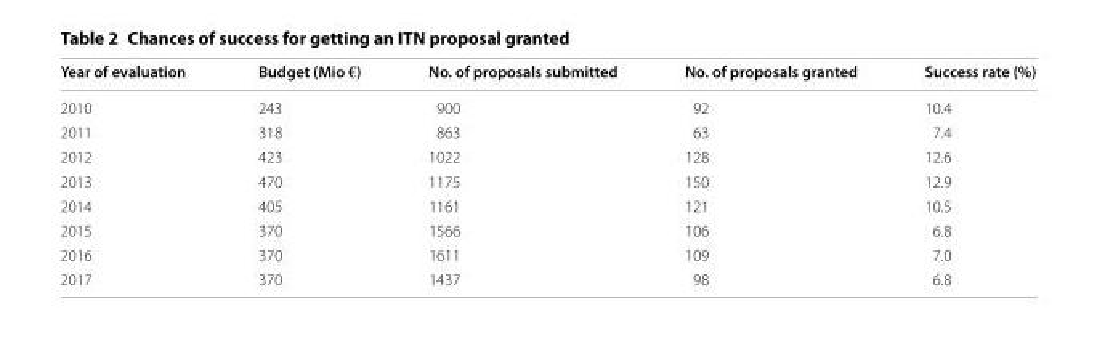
<table><thead><tr><td>Year of evaluation</td><td>Budget (Mio €)</td><td>No. of proposals submitted</td><td>No. of proposals granted</td><td>Success rate (%)</td></tr></thead><tbody><tr><td>2010</td><td>243</td><td>900</td><td>92</td><td>10.4</td></tr><tr><td>2011</td><td>318</td><td>863</td><td>63</td><td>7.4</td></tr><tr><td>2012</td><td>423</td><td>1022</td><td>128</td><td>12.6</td></tr><tr><td>2013</td><td>470</td><td>1175</td><td>150</td><td>12.9</td></tr><tr><td>2014</td><td>405</td><td>1161</td><td>121</td><td>10.5</td></tr><tr><td>2015</td><td>370</td><td>1566</td><td>106</td><td>6.8</td></tr><tr><td>2016</td><td>370</td><td>1611</td><td>109</td><td>7.0</td></tr><tr><td>2017</td><td>370</td><td>1437</td><td>98</td><td>6.8</td></tr></tbody></table>